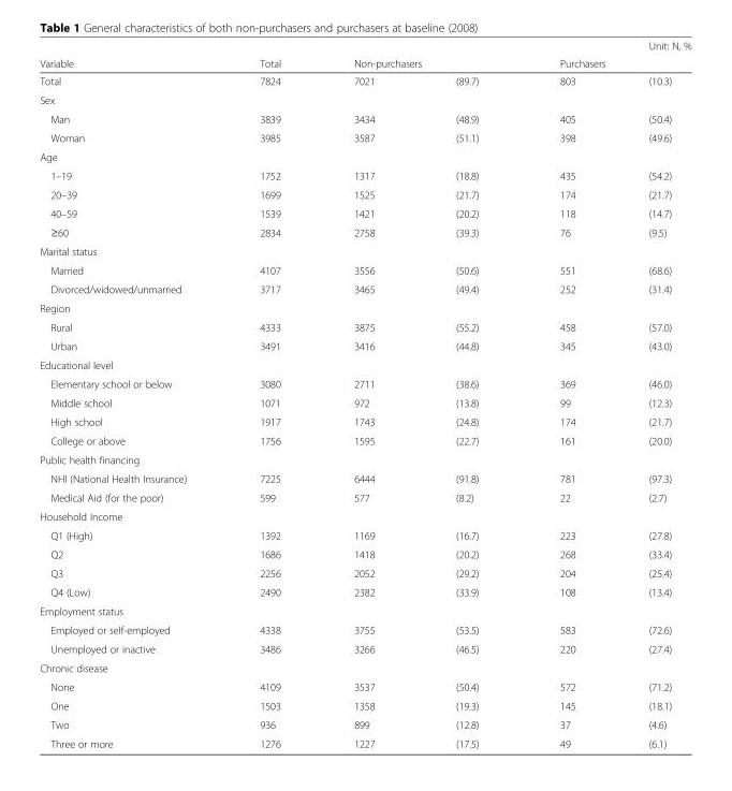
<table><thead><tr><td rowspan="2">Variable</td><td rowspan="2">Total</td><td></td><td></td><td></td><td>Unit: N, %</td></tr><tr><td colspan="2">Non-purchasers</td><td colspan="2">Purchasers</td></tr></thead><tbody><tr><td>Total</td><td>7824</td><td>7021</td><td>(89.7)</td><td>803</td><td>(10.3)</td></tr><tr><td colspan="6">Sex</td></tr><tr><td>Man</td><td>3839</td><td>3434</td><td>(48.9)</td><td>405</td><td>(50.4)</td></tr><tr><td>Woman</td><td>3985</td><td>3587</td><td>(51.1)</td><td>398</td><td>(49.6)</td></tr><tr><td colspan="6">Age</td></tr><tr><td>1–19</td><td>1752</td><td>1317</td><td>(18.8)</td><td>435</td><td>(54.2)</td></tr><tr><td>20–39</td><td>1699</td><td>1525</td><td>(21.7)</td><td>174</td><td>(21.7)</td></tr><tr><td>40–59</td><td>1539</td><td>1421</td><td>(20.2)</td><td>118</td><td>(14.7)</td></tr><tr><td>≥60</td><td>2834</td><td>2758</td><td>(39.3)</td><td>76</td><td>(9.5)</td></tr><tr><td colspan="6">Marital status</td></tr><tr><td>Married</td><td>4107</td><td>3556</td><td>(50.6)</td><td>551</td><td>(68.6)</td></tr><tr><td>Divorced/widowed/unmarried</td><td>3717</td><td>3465</td><td>(49.4)</td><td>252</td><td>(31.4)</td></tr><tr><td colspan="6">Region</td></tr><tr><td>Rural</td><td>4333</td><td>3875</td><td>(55.2)</td><td>458</td><td>(57.0)</td></tr><tr><td>Urban</td><td>3491</td><td>3416</td><td>(44.8)</td><td>345</td><td>(43.0)</td></tr><tr><td colspan="6">Educational level</td></tr><tr><td>Elementary school or below</td><td>3080</td><td>2711</td><td>(38.6)</td><td>369</td><td>(46.0)</td></tr><tr><td>Middle school</td><td>1071</td><td>972</td><td>(13.8)</td><td>99</td><td>(12.3)</td></tr><tr><td>High school</td><td>1917</td><td>1743</td><td>(24.8)</td><td>174</td><td>(21.7)</td></tr><tr><td>College or above</td><td>1756</td><td>1595</td><td>(22.7)</td><td>161</td><td>(20.0)</td></tr><tr><td colspan="6">Public health financing</td></tr><tr><td>NHI (National Health Insurance)</td><td>7225</td><td>6444</td><td>(91.8)</td><td>781</td><td>(97.3)</td></tr><tr><td>Medical Aid (for the poor)</td><td>599</td><td>577</td><td>(8.2)</td><td>22</td><td>(2.7)</td></tr><tr><td colspan="6">Household Income</td></tr><tr><td>Q1 (High)</td><td>1392</td><td>1169</td><td>(16.7)</td><td>223</td><td>(27.8)</td></tr><tr><td>Q2</td><td>1686</td><td>1418</td><td>(20.2)</td><td>268</td><td>(33.4)</td></tr><tr><td>Q3</td><td>2256</td><td>2052</td><td>(29.2)</td><td>204</td><td>(25.4)</td></tr><tr><td>Q4 (Low)</td><td>2490</td><td>2382</td><td>(33.9)</td><td>108</td><td>(13.4)</td></tr><tr><td colspan="6">Employment status</td></tr><tr><td>Employed or self-employed</td><td>4338</td><td>3755</td><td>(53.5)</td><td>583</td><td>(72.6)</td></tr><tr><td>Unemployed or inactive</td><td>3486</td><td>3266</td><td>(46.5)</td><td>220</td><td>(27.4)</td></tr><tr><td colspan="6">Chronic disease</td></tr><tr><td>None</td><td>4109</td><td>3537</td><td>(50.4)</td><td>572</td><td>(71.2)</td></tr><tr><td>One</td><td>1503</td><td>1358</td><td>(19.3)</td><td>145</td><td>(18.1)</td></tr><tr><td>Two</td><td>936</td><td>899</td><td>(12.8)</td><td>37</td><td>(4.6)</td></tr><tr><td>Three or more</td><td>1276</td><td>1227</td><td>(17.5)</td><td>49</td><td>(6.1)</td></tr></tbody></table>